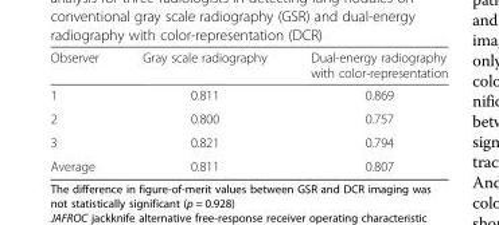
<table><thead><tr><td>Observer</td><td>Gray scale radiography</td><td>Dual-energy radiography with color-representation</td></tr></thead><tbody><tr><td>1</td><td>0.811</td><td>0.869</td></tr><tr><td>2</td><td>0.800</td><td>0.757</td></tr><tr><td>3</td><td>0.821</td><td>0.794</td></tr><tr><td>Average</td><td>0.811</td><td>0.807</td></tr></tbody></table>